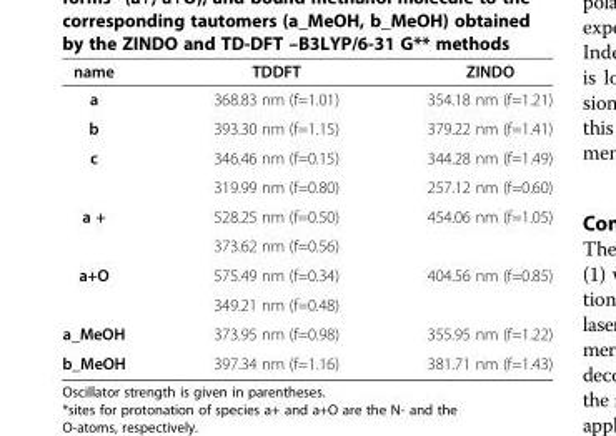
<table><thead><tr><td>name</td><td>TDDFT</td><td>ZINDO</td></tr></thead><tbody><tr><td>a</td><td>368.83 nm (f=1.01)</td><td>354.18 nm (f=1.21)</td></tr><tr><td>b</td><td>393.30 nm (f=1.15)</td><td>379.22 nm (f=1.41)</td></tr><tr><td rowspan="2">c</td><td>346.46 nm (f=0.15)</td><td>344.28 nm (f=1.49)</td></tr><tr><td>319.99 nm (f=0.80)</td><td>257.12 nm (f=0.60)</td></tr><tr><td rowspan="2">a +</td><td>528.25 nm (f=0.50)</td><td rowspan="2">454.06 nm (f=1.05)</td></tr><tr><td>373.62 nm (f=0.56)</td></tr><tr><td rowspan="2">a+O</td><td>575.49 nm (f=0.34)</td><td rowspan="2">404.56 nm (f=0.85)</td></tr><tr><td>349.21 nm (f=0.48)</td></tr><tr><td>a_MeOH</td><td>373.95 nm (f=0.98)</td><td>355.95 nm (f=1.22)</td></tr><tr><td>b_MeOH</td><td>397.34 nm (f=1.16)</td><td>381.71 nm (f=1.43)</td></tr></tbody></table>